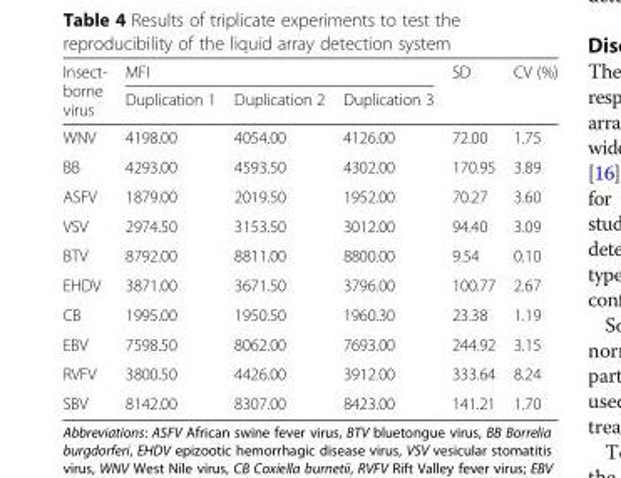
<table><thead><tr><td rowspan="2">Insect- borne virus</td><td colspan="3">MFI</td><td rowspan="2">SD</td><td rowspan="2">CV (%)</td></tr><tr><td>Duplication 1</td><td>Duplication 2</td><td>Duplication 3</td></tr></thead><tbody><tr><td>WNV</td><td>4198.00</td><td>4054.00</td><td>4126.00</td><td>72.00</td><td>1.75</td></tr><tr><td>BB</td><td>4293.00</td><td>4593.50</td><td>4302.00</td><td>170.95</td><td>3.89</td></tr><tr><td>ASFV</td><td>1879.00</td><td>2019.50</td><td>1952.00</td><td>70.27</td><td>3.60</td></tr><tr><td>VSV</td><td>2974.50</td><td>3153.50</td><td>3012.00</td><td>94.40</td><td>3.09</td></tr><tr><td>BTV</td><td>8792.00</td><td>8811.00</td><td>8800.00</td><td>9.54</td><td>0.10</td></tr><tr><td>EHDV</td><td>3871.00</td><td>3671.50</td><td>3796.00</td><td>100.77</td><td>2.67</td></tr><tr><td>CB</td><td>1995.00</td><td>1950.50</td><td>1960.30</td><td>23.38</td><td>1.19</td></tr><tr><td>EBV</td><td>7598.50</td><td>8062.00</td><td>7693.00</td><td>244.92</td><td>3.15</td></tr><tr><td>RVFV</td><td>3800.50</td><td>4426.00</td><td>3912.00</td><td>333.64</td><td>8.24</td></tr><tr><td>SBV</td><td>8142.00</td><td>8307.00</td><td>8423.00</td><td>141.21</td><td>1.70</td></tr></tbody></table>